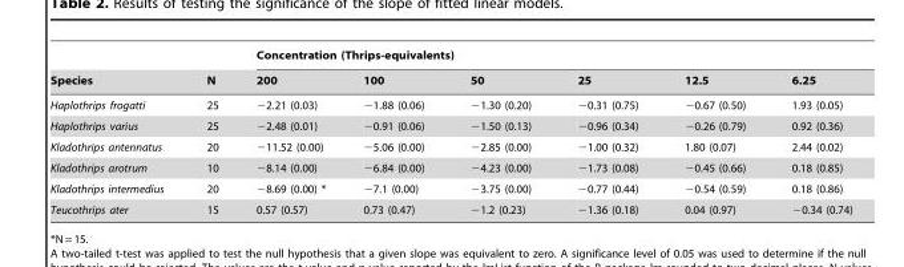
<table><thead><tr><td rowspan="2">Species</td><td rowspan="2">N</td><td colspan="6">Concentration (Thrips-equivalents)</td></tr><tr><td>200</td><td>100</td><td>50</td><td>25</td><td>12.5</td><td>6.25</td></tr></thead><tbody><tr><td>Haplothrips frogatti</td><td>25</td><td>−2.21 (0.03)</td><td>−1.88 (0.06)</td><td>−1.30 (0.20)</td><td>−0.31 (0.75)</td><td>−0.67 (0.50)</td><td>1.93 (0.05)</td></tr><tr><td>Haplothrips varius</td><td>25</td><td>−2.48 (0.01)</td><td>−0.91 (0.06)</td><td>−1.50 (0.13)</td><td>−0.96 (0.34)</td><td>−0.26 (0.79)</td><td>0.92 (0.36)</td></tr><tr><td>Kladothrips antennatus</td><td>20</td><td>−11.52 (0.00)</td><td>−5.06 (0.00)</td><td>−2.85 (0.00)</td><td>−1.00 (0.32)</td><td>1.80 (0.07)</td><td>2.44 (0.02)</td></tr><tr><td>Kladothrips arotrum</td><td>10</td><td>−8.14 (0.00)</td><td>−6.84 (0.00)</td><td>−4.23 (0.00)</td><td>−1.73 (0.08)</td><td>−0.45 (0.66)</td><td>0.18 (0.85)</td></tr><tr><td>Kladothrips intermedius</td><td>20</td><td>−8.69 (0.00) *</td><td>−7.1 (0.00)</td><td>−3.75 (0.00)</td><td>−0.77 (0.44)</td><td>−0.54 (0.59)</td><td>0.18 (0.86)</td></tr><tr><td>Teucothrips ater</td><td>15</td><td>0.57 (0.57)</td><td>0.73 (0.47)</td><td>−1.2 (0.23)</td><td>−1.36 (0.18)</td><td>0.04 (0.97)</td><td>−0.34 (0.74)</td></tr></tbody></table>